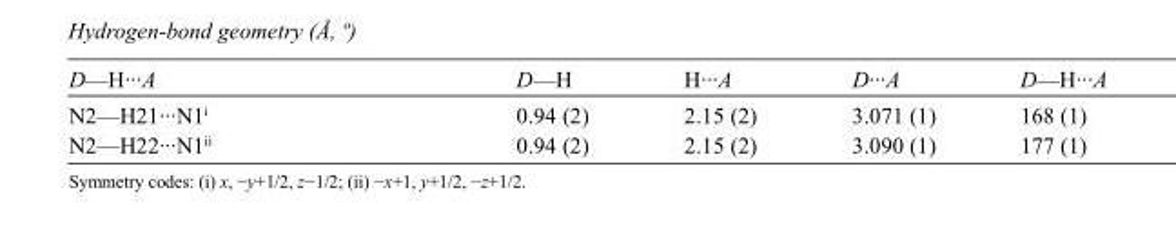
<table><tbody><tr><td>D—H···A</td><td>D—H</td><td>H···A</td><td>D···A</td><td>D—H···A</td></tr><tr><td>N2—H21···N1<sup>i</sup></td><td>0.94 (2)</td><td>2.15 (2)</td><td>3.071 (1)</td><td>168 (1)</td></tr><tr><td>N2—H22···N1<sup>ii</sup></td><td>0.94 (2)</td><td>2.15 (2)</td><td>3.090 (1)</td><td>177 (1)</td></tr></tbody></table>